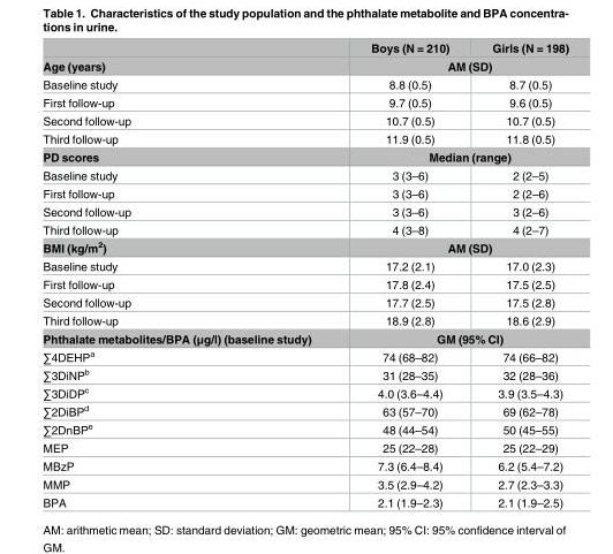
<table><thead><tr><td></td><td>Boys (N = 210)</td><td>Girls (N = 198)</td></tr></thead><tbody><tr><td>Age (years)</td><td colspan="2">AM (SD)</td></tr><tr><td>Baseline study</td><td>8.8 (0.5)</td><td>8.7 (0.5)</td></tr><tr><td>First follow-up</td><td>9.7 (0.5)</td><td>9.6 (0.5)</td></tr><tr><td>Second follow-up</td><td>10.7 (0.5)</td><td>10.7 (0.5)</td></tr><tr><td>Third follow-up</td><td>11.9 (0.5)</td><td>11.8 (0.5)</td></tr><tr><td>PD scores</td><td colspan="2">Median (range)</td></tr><tr><td>Baseline study</td><td>3 (3–6)</td><td>2 (2–5)</td></tr><tr><td>First follow-up</td><td>3 (3–6)</td><td>2 (2–6)</td></tr><tr><td>Second follow-up</td><td>3 (3–6)</td><td>3 (2–6)</td></tr><tr><td>Third follow-up</td><td>4 (3–8)</td><td>4 (2–7)</td></tr><tr><td>BMI (kg/m<sup>2</sup>)</td><td colspan="2">AM (SD)</td></tr><tr><td>Baseline study</td><td>17.2 (2.1)</td><td>17.0 (2.3)</td></tr><tr><td>First follow-up</td><td>17.8 (2.4)</td><td>17.5 (2.5)</td></tr><tr><td>Second follow-up</td><td>17.7 (2.5)</td><td>17.5 (2.8)</td></tr><tr><td>Third follow-up</td><td>18.9 (2.8)</td><td>18.6 (2.9)</td></tr><tr><td>Phthalate metabolites/BPA (μg/l) (baseline study)</td><td colspan="2">GM (95% CI)</td></tr><tr><td>∑4DEHP<sup>a</sup></td><td>74 (68–82)</td><td>74 (66–82)</td></tr><tr><td>∑3DiNP<sup>b</sup></td><td>31 (28–35)</td><td>32 (28–36)</td></tr><tr><td>∑3DiDP<sup>c</sup></td><td>4.0 (3.6–4.4)</td><td>3.9 (3.5–4.3)</td></tr><tr><td>∑2DiBP<sup>d</sup></td><td>63 (57–70)</td><td>69 (62–78)</td></tr><tr><td>∑2DnBP<sup>e</sup></td><td>48 (44–54)</td><td>50 (45–55)</td></tr><tr><td>MEP</td><td>25 (22–28)</td><td>25 (22–29)</td></tr><tr><td>MBzP</td><td>7.3 (6.4–8.4)</td><td>6.2 (5.4–7.2)</td></tr><tr><td>MMP</td><td>3.5 (2.9–4.2)</td><td>2.7 (2.3–3.3)</td></tr><tr><td>BPA</td><td>2.1 (1.9–2.3)</td><td>2.1 (1.9–2.5)</td></tr></tbody></table>